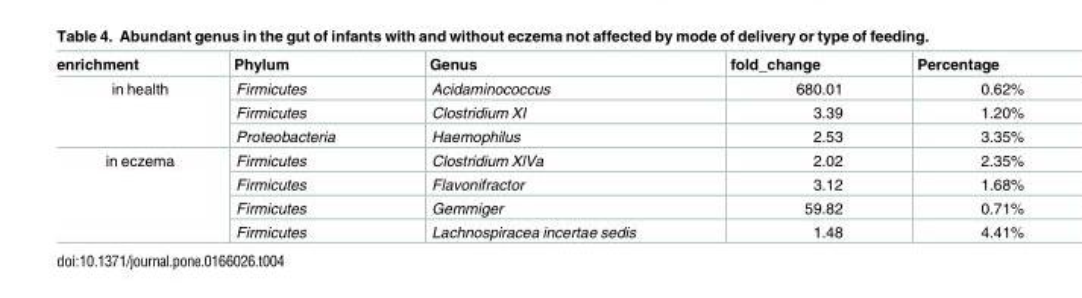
<table><thead><tr><td>enrichment</td><td>Phylum</td><td>Genus</td><td>fold_change</td><td>Percentage</td></tr></thead><tbody><tr><td rowspan="3">in health</td><td>Firmicutes</td><td>Acidaminococcus</td><td>680.01</td><td>0.62%</td></tr><tr><td>Firmicutes</td><td>Clostridium XI</td><td>3.39</td><td>1.20%</td></tr><tr><td>Proteobacteria</td><td>Haemophilus</td><td>2.53</td><td>3.35%</td></tr><tr><td rowspan="4">in eczema</td><td>Firmicutes</td><td>Clostridium XlVa</td><td>2.02</td><td>2.35%</td></tr><tr><td>Firmicutes</td><td>Flavonifractor</td><td>3.12</td><td>1.68%</td></tr><tr><td>Firmicutes</td><td>Gemmiger</td><td>59.82</td><td>0.71%</td></tr><tr><td>Firmicutes</td><td>Lachnospiracea incertae sedis</td><td>1.48</td><td>4.41%</td></tr></tbody></table>